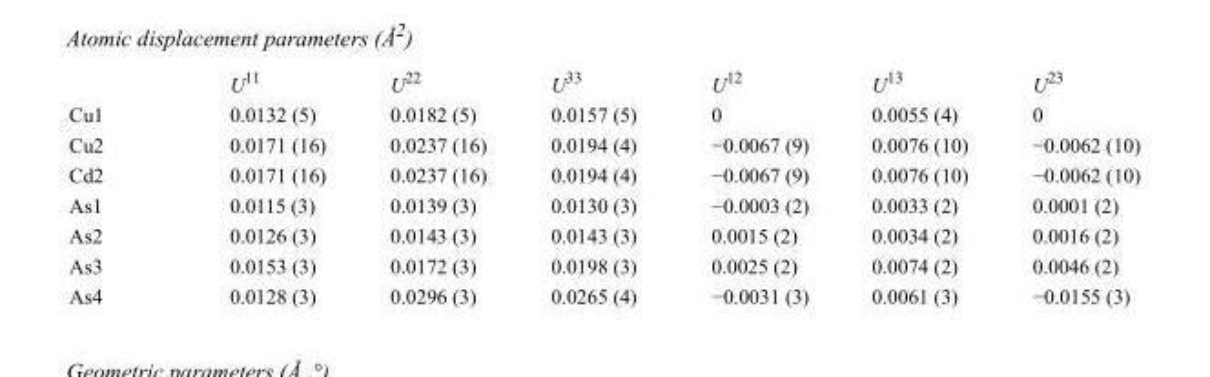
<table><thead><tr><td></td><td>U<sup>11</sup></td><td>U<sup>22</sup></td><td>U<sup>33</sup></td><td>U<sup>12</sup></td><td>U<sup>13</sup></td><td>U<sup>23</sup></td></tr></thead><tbody><tr><td>Cu1</td><td>0.0132 (5)</td><td>0.0182 (5)</td><td>0.0157 (5)</td><td>0</td><td>0.0055 (4)</td><td>0</td></tr><tr><td>Cu2</td><td>0.0171 (16)</td><td>0.0237 (16)</td><td>0.0194 (4)</td><td>−0.0067 (9)</td><td>0.0076 (10)</td><td>−0.0062 (10)</td></tr><tr><td>Cd2</td><td>0.0171 (16)</td><td>0.0237 (16)</td><td>0.0194 (4)</td><td>−0.0067 (9)</td><td>0.0076 (10)</td><td>−0.0062 (10)</td></tr><tr><td>As1</td><td>0.0115 (3)</td><td>0.0139 (3)</td><td>0.0130 (3)</td><td>−0.0003 (2)</td><td>0.0033 (2)</td><td>0.0001 (2)</td></tr><tr><td>As2</td><td>0.0126 (3)</td><td>0.0143 (3)</td><td>0.0143 (3)</td><td>0.0015 (2)</td><td>0.0034 (2)</td><td>0.0016 (2)</td></tr><tr><td>As3</td><td>0.0153 (3)</td><td>0.0172 (3)</td><td>0.0198 (3)</td><td>0.0025 (2)</td><td>0.0074 (2)</td><td>0.0046 (2)</td></tr><tr><td>As4</td><td>0.0128 (3)</td><td>0.0296 (3)</td><td>0.0265 (4)</td><td>−0.0031 (3)</td><td>0.0061 (3)</td><td>−0.0155 (3)</td></tr></tbody></table>